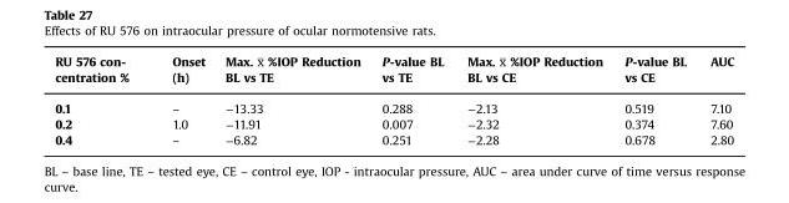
<table><thead><tr><td>RU 576 con- centration %</td><td>Onset (h)</td><td>Max. x̅ %IOP Reduction BL vs TE</td><td>P-value BL vs TE</td><td>Max. x̅ %IOP Reduction BL vs CE</td><td>P-value BL vs CE</td><td>AUC</td></tr></thead><tbody><tr><td>0.1</td><td>–</td><td>−13.33</td><td>0.288</td><td>−2.13</td><td>0.519</td><td>7.10</td></tr><tr><td>0.2</td><td>1.0</td><td>−11.91</td><td>0.007</td><td>−2.32</td><td>0.374</td><td>7.60</td></tr><tr><td>0.4</td><td>–</td><td>−6.82</td><td>0.251</td><td>−2.28</td><td>0.678</td><td>2.80</td></tr></tbody></table>